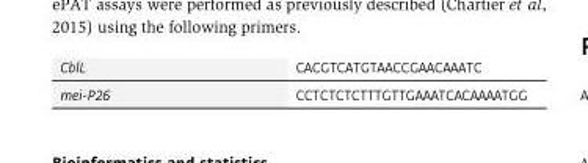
<table><tbody><tr><td>CblL</td><td>CACGTCATGTAACCGAACAAATC</td></tr><tr><td>mei-P26</td><td>CCTCTCTCTTTGTTGAAATCACAAAATGG</td></tr></tbody></table>